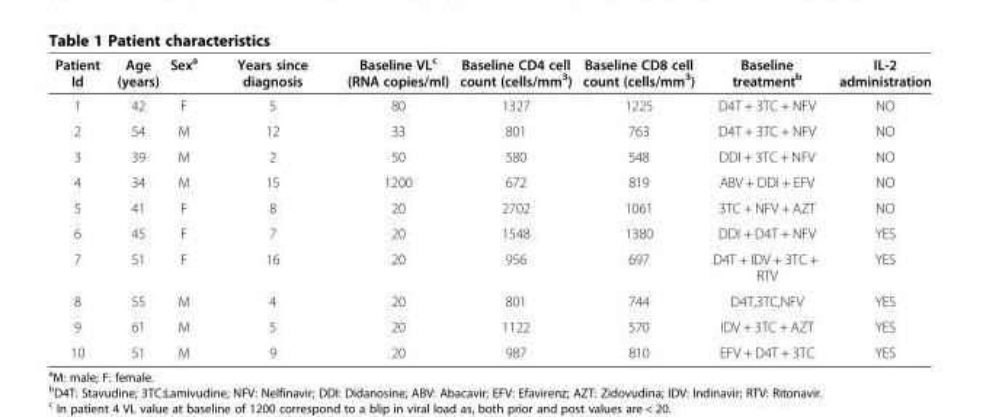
<table><thead><tr><td>Patient Id</td><td>Age (years)</td><td>Sex<sup>a</sup></td><td>Years since diagnosis</td><td>Baseline VL<sup>c</sup> (RNA copies/ml)</td><td>Baseline CD4 cell count (cells/mm<sup>3</sup>)</td><td>Baseline CD8 cell count (cells/mm<sup>3</sup>)</td><td>Baseline treatment<sup>b</sup></td><td>IL-2 administration</td></tr></thead><tbody><tr><td>1</td><td>42</td><td>F</td><td>5</td><td>80</td><td>1327</td><td>1225</td><td>D4T + 3TC + NFV</td><td>NO</td></tr><tr><td>2</td><td>54</td><td>M</td><td>12</td><td>33</td><td>801</td><td>763</td><td>D4T + 3TC + NFV</td><td>NO</td></tr><tr><td>3</td><td>39</td><td>M</td><td>2</td><td>50</td><td>580</td><td>548</td><td>DDI + 3TC + NFV</td><td>NO</td></tr><tr><td>4</td><td>34</td><td>M</td><td>15</td><td>1200</td><td>672</td><td>819</td><td>ABV + DDI + EFV</td><td>NO</td></tr><tr><td>5</td><td>41</td><td>F</td><td>8</td><td>20</td><td>2702</td><td>1061</td><td>3TC + NFV + AZT</td><td>NO</td></tr><tr><td>6</td><td>45</td><td>F</td><td>7</td><td>20</td><td>1548</td><td>1380</td><td>DDI + D4T + NFV</td><td>YES</td></tr><tr><td>7</td><td>51</td><td>F</td><td>16</td><td>20</td><td>956</td><td>697</td><td>D4T + IDV + 3TC + RTV</td><td>YES</td></tr><tr><td>8</td><td>55</td><td>M</td><td>4</td><td>20</td><td>801</td><td>744</td><td>D4T,3TC,NFV</td><td>YES</td></tr><tr><td>9</td><td>61</td><td>M</td><td>5</td><td>20</td><td>1122</td><td>570</td><td>IDV + 3TC + AZT</td><td>YES</td></tr><tr><td>10</td><td>51</td><td>M</td><td>9</td><td>20</td><td>987</td><td>810</td><td>EFV + D4T + 3TC</td><td>YES</td></tr></tbody></table>